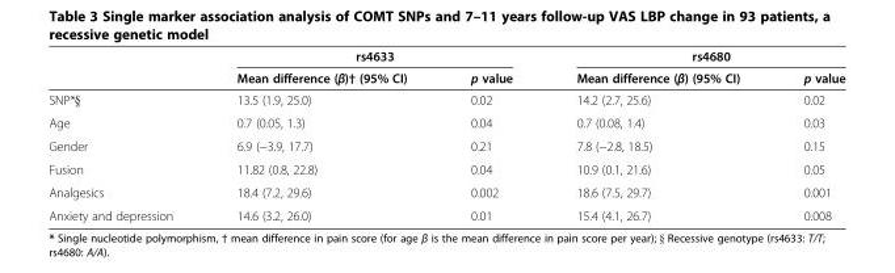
<table><thead><tr><td rowspan="2"></td><td colspan="2">rs4633</td><td colspan="2">rs4680</td></tr><tr><td>Mean difference (β)† (95% CI)</td><td>p value</td><td>Mean difference (β) (95% CI)</td><td>p value</td></tr></thead><tbody><tr><td>SNP*§</td><td>13.5 (1.9, 25.0)</td><td>0.02</td><td>14.2 (2.7, 25.6)</td><td>0.02</td></tr><tr><td>Age</td><td>0.7 (0.05, 1.3)</td><td>0.04</td><td>0.7 (0.08, 1.4)</td><td>0.03</td></tr><tr><td>Gender</td><td>6.9 (−3.9, 17.7)</td><td>0.21</td><td>7.8 (−2.8, 18.5)</td><td>0.15</td></tr><tr><td>Fusion</td><td>11.82 (0.8, 22.8)</td><td>0.04</td><td>10.9 (0.1, 21.6)</td><td>0.05</td></tr><tr><td>Analgesics</td><td>18.4 (7.2, 29.6)</td><td>0.002</td><td>18.6 (7.5, 29.7)</td><td>0.001</td></tr><tr><td>Anxiety and depression</td><td>14.6 (3.2, 26.0)</td><td>0.01</td><td>15.4 (4.1, 26.7)</td><td>0.008</td></tr></tbody></table>